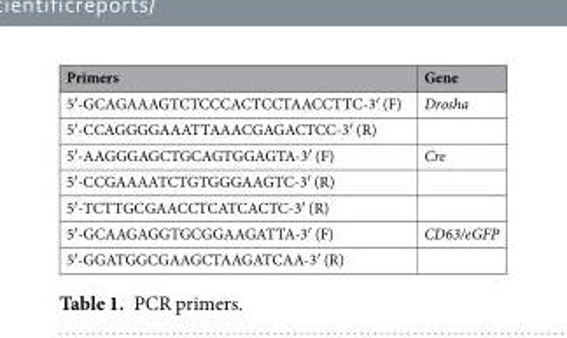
<table><thead><tr><td>Primers</td><td>Gene</td></tr></thead><tbody><tr><td>5′-GCAGAAAGTCTCCCACTCCTAACCTTC-3′ (F)</td><td>Drosha</td></tr><tr><td colspan="2">5′-CCAGGGGAAATTAAACGAGACTCC-3′ (R)</td></tr><tr><td>5′-AAGGGAGCTGCAGTGGAGTA-3′ (F)</td><td>Cre</td></tr><tr><td colspan="2">5′-CCGAAAATCTGTGGGAAGTC-3′ (R)</td></tr><tr><td colspan="2">5′-TCTTGCGAACCTCATCACTC-3′ (R)</td></tr><tr><td>5′-GCAAGAGGTGCGGAAGATTA-3′ (F)</td><td>CD63/eGFP</td></tr><tr><td>5′-GGATGGCGAAGCTAAGATCAA-3′ (R)</td><td></td></tr></tbody></table>